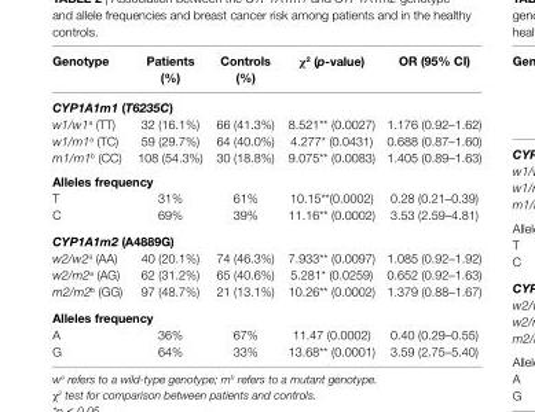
<table><thead><tr><td>genotype</td><td>Patients (%)</td><td>controls (%)</td><td>χ<sup>2</sup> (p-value)</td><td>Or (95% ci)</td></tr></thead><tbody><tr><td colspan="5">CYP1A1m1 (T6235C)</td></tr><tr><td>w1/w1<sup>a</sup> (TT)</td><td>32 (16.1%)</td><td>66 (41.3%)</td><td>8.521** (0.0027)</td><td>1.176 (0.92–1.62)</td></tr><tr><td>w1/m1<sup>a</sup> (TC)</td><td>59 (29.7%)</td><td>64 (40.0%)</td><td>4.277* (0.0431)</td><td>0.688 (0.87–1.60)</td></tr><tr><td>m1/m1<sup>b</sup> (CC)</td><td>108 (54.3%)</td><td>30 (18.8%)</td><td>9.075** (0.0083)</td><td>1.405 (0.89–1.63)</td></tr><tr><td colspan="5">alleles frequency</td></tr><tr><td>T</td><td>31%</td><td>61%</td><td>10.15**(0.0002)</td><td>0.28 (0.21–0.39)</td></tr><tr><td>C</td><td>69%</td><td>39%</td><td>11.16** (0.0002)</td><td>3.53 (2.59–4.81)</td></tr><tr><td colspan="5">CYP1A1m2 (a4889g)</td></tr><tr><td>w2/w2<sup>a</sup> (AA)</td><td>40 (20.1%)</td><td>74 (46.3%)</td><td>7.933** (0.0097)</td><td>1.085 (0.92–1.92)</td></tr><tr><td>w2/m2<sup>a</sup> (AG)</td><td>62 (31.2%)</td><td>65 (40.6%)</td><td>5.281* (0.0259)</td><td>0.652 (0.92–1.63)</td></tr><tr><td>m2/m2<sup>b</sup> (GG)</td><td>97 (48.7%)</td><td>21 (13.1%)</td><td>10.26** (0.0002)</td><td>1.379 (0.88–1.67)</td></tr><tr><td colspan="5">alleles frequency</td></tr><tr><td>A</td><td>36%</td><td>67%</td><td>11.47 (0.0002)</td><td>0.40 (0.29–0.55)</td></tr><tr><td>G</td><td>64%</td><td>33%</td><td>13.68** (0.0001)</td><td>3.59 (2.75–5.40)</td></tr></tbody></table>